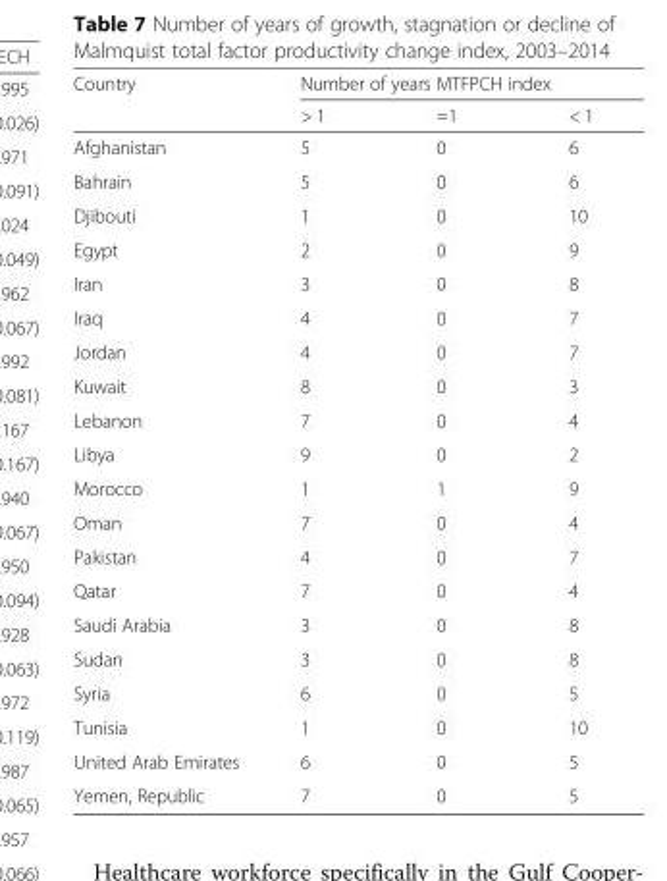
<table><thead><tr><td rowspan="2">Country</td><td colspan="3">Number of years MTFPCH index</td></tr><tr><td>&gt; 1</td><td>=1</td><td>&lt; 1</td></tr></thead><tbody><tr><td>Afghanistan</td><td>5</td><td>0</td><td>6</td></tr><tr><td>Bahrain</td><td>5</td><td>0</td><td>6</td></tr><tr><td>Djibouti</td><td>1</td><td>0</td><td>10</td></tr><tr><td>Egypt</td><td>2</td><td>0</td><td>9</td></tr><tr><td>Iran</td><td>3</td><td>0</td><td>8</td></tr><tr><td>Iraq</td><td>4</td><td>0</td><td>7</td></tr><tr><td>Jordan</td><td>4</td><td>0</td><td>7</td></tr><tr><td>Kuwait</td><td>8</td><td>0</td><td>3</td></tr><tr><td>Lebanon</td><td>7</td><td>0</td><td>4</td></tr><tr><td>Libya</td><td>9</td><td>0</td><td>2</td></tr><tr><td>Morocco</td><td>1</td><td>1</td><td>9</td></tr><tr><td>Oman</td><td>7</td><td>0</td><td>4</td></tr><tr><td>Pakistan</td><td>4</td><td>0</td><td>7</td></tr><tr><td>Qatar</td><td>7</td><td>0</td><td>4</td></tr><tr><td>Saudi Arabia</td><td>3</td><td>0</td><td>8</td></tr><tr><td>Sudan</td><td>3</td><td>0</td><td>8</td></tr><tr><td>Syria</td><td>6</td><td>0</td><td>5</td></tr><tr><td>Tunisia</td><td>1</td><td>0</td><td>10</td></tr><tr><td>United Arab Emirates</td><td>6</td><td>0</td><td>5</td></tr><tr><td>Yemen, Republic</td><td>7</td><td>0</td><td>5</td></tr></tbody></table>